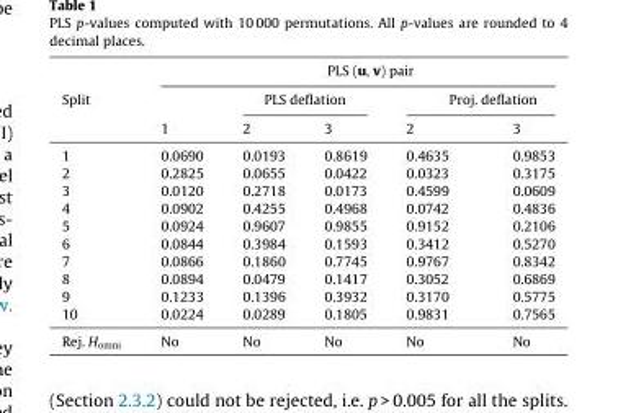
<table><thead><tr><td rowspan="3">Split</td><td colspan="5">PLS (u, v) pair</td></tr><tr><td rowspan="2">1</td><td colspan="2">PLS deflation</td><td colspan="2">Proj. deflation</td></tr><tr><td>2</td><td>3</td><td>2</td><td>3</td></tr></thead><tbody><tr><td>1</td><td>0.0690</td><td>0.0193</td><td>0.8619</td><td>0.4635</td><td>0.9853</td></tr><tr><td>2</td><td>0.2825</td><td>0.0655</td><td>0.0422</td><td>0.0323</td><td>0.3175</td></tr><tr><td>3</td><td>0.0120</td><td>0.2718</td><td>0.0173</td><td>0.4599</td><td>0.0609</td></tr><tr><td>4</td><td>0.0902</td><td>0.4255</td><td>0.4968</td><td>0.0742</td><td>0.4836</td></tr><tr><td>5</td><td>0.0924</td><td>0.9607</td><td>0.9855</td><td>0.9152</td><td>0.2106</td></tr><tr><td>6</td><td>0.0844</td><td>0.3984</td><td>0.1593</td><td>0.3412</td><td>0.5270</td></tr><tr><td>7</td><td>0.0866</td><td>0.1860</td><td>0.7745</td><td>0.9767</td><td>0.8342</td></tr><tr><td>8</td><td>0.0894</td><td>0.0479</td><td>0.1417</td><td>0.3052</td><td>0.6869</td></tr><tr><td>9</td><td>0.1233</td><td>0.1396</td><td>0.3932</td><td>0.3170</td><td>0.5775</td></tr><tr><td>10</td><td>0.0224</td><td>0.0289</td><td>0.1805</td><td>0.9831</td><td>0.7565</td></tr><tr><td>Rej. H<sub>omni</sub></td><td>No</td><td>No</td><td>No</td><td>No</td><td>No</td></tr></tbody></table>